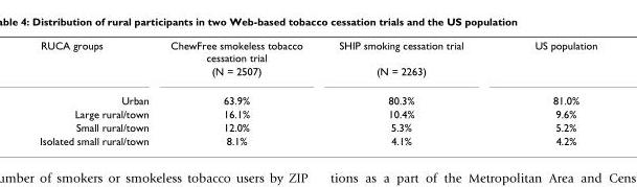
<table><tbody><tr><td rowspan="2">RUCA groups</td><td>ChewFree smokeless tobacco cessation trial</td><td>SHIP smoking cessation trial</td><td>US population</td></tr><tr><td>(N = 2507)</td><td>(N = 2263)</td><td></td></tr><tr><td>Urban</td><td>63.9%</td><td>80.3%</td><td>81.0%</td></tr><tr><td>Large rural/town</td><td>16.1%</td><td>10.4%</td><td>9.6%</td></tr><tr><td>Small rural/town</td><td>12.0%</td><td>5.3%</td><td>5.2%</td></tr><tr><td>Isolated small rural/town</td><td>8.1%</td><td>4.1%</td><td>4.2%</td></tr></tbody></table>